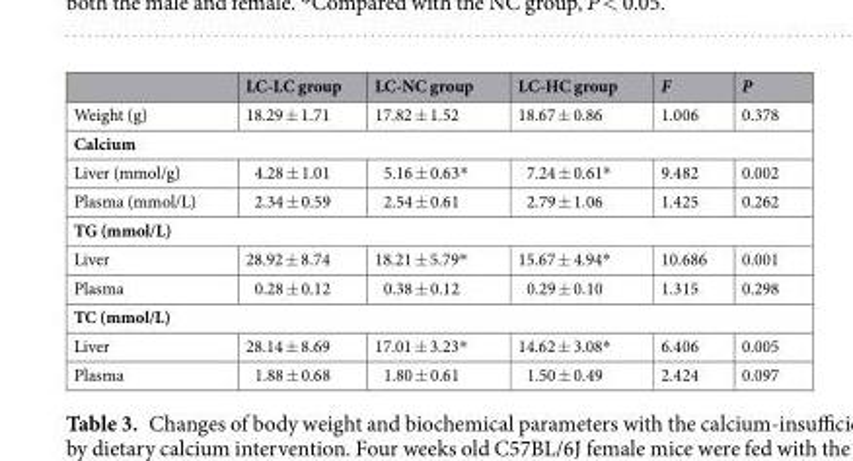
<table><thead><tr><td></td><td>LC-LC group</td><td>LC-NC group</td><td>LC-HC group</td><td>F</td><td>P</td></tr></thead><tbody><tr><td>Weight (g)</td><td>18.29 ± 1.71</td><td>17.82 ± 1.52</td><td>18.67 ± 0.86</td><td>1.006</td><td>0.378</td></tr><tr><td colspan="6">Calcium</td></tr><tr><td>Liver (mmol/g)</td><td>4.28 ± 1.01</td><td>5.16 ± 0.63*</td><td>7.24 ± 0.61*</td><td>9.482</td><td>0.002</td></tr><tr><td>Plasma (mmol/L)</td><td>2.34 ± 0.59</td><td>2.54 ± 0.61</td><td>2.79 ± 1.06</td><td>1.425</td><td>0.262</td></tr><tr><td colspan="6">TG (mmol/L)</td></tr><tr><td>Liver</td><td>28.92 ± 8.74</td><td>18.21 ± 5.79*</td><td>15.67 ± 4.94*</td><td>10.686</td><td>0.001</td></tr><tr><td>Plasma</td><td>0.28 ± 0.12</td><td>0.38 ± 0.12</td><td>0.29 ± 0.10</td><td>1.315</td><td>0.298</td></tr><tr><td colspan="6">TC (mmol/L)</td></tr><tr><td>Liver</td><td>28.14 ± 8.69</td><td>17.01 ± 3.23*</td><td>14.62 ± 3.08*</td><td>6.406</td><td>0.005</td></tr><tr><td>Plasma</td><td>1.88 ± 0.68</td><td>1.80 ± 0.61</td><td>1.50 ± 0.49</td><td>2.424</td><td>0.097</td></tr></tbody></table>